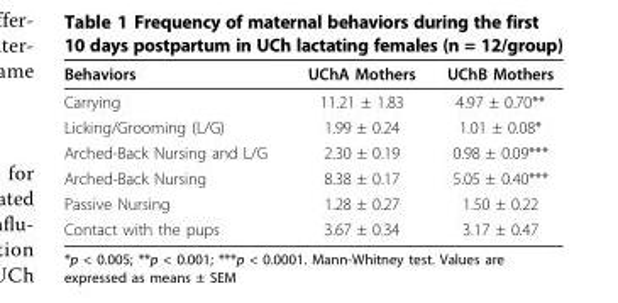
<table><thead><tr><td>Behaviors</td><td>UChA Mothers</td><td>UChB Mothers</td></tr></thead><tbody><tr><td>Carrying</td><td>11.21 ± 1.83</td><td>4.97 ± 0.70**</td></tr><tr><td>Licking/Grooming (L/G)</td><td>1.99 ± 0.24</td><td>1.01 ± 0.08*</td></tr><tr><td>Arched-Back Nursing and L/G</td><td>2.30 ± 0.19</td><td>0.98 ± 0.09***</td></tr><tr><td>Arched-Back Nursing</td><td>8.38 ± 0.17</td><td>5.05 ± 0.40***</td></tr><tr><td>Passive Nursing</td><td>1.28 ± 0.27</td><td>1.50 ± 0.22</td></tr><tr><td>Contact with the pups</td><td>3.67 ± 0.34</td><td>3.17 ± 0.47</td></tr></tbody></table>